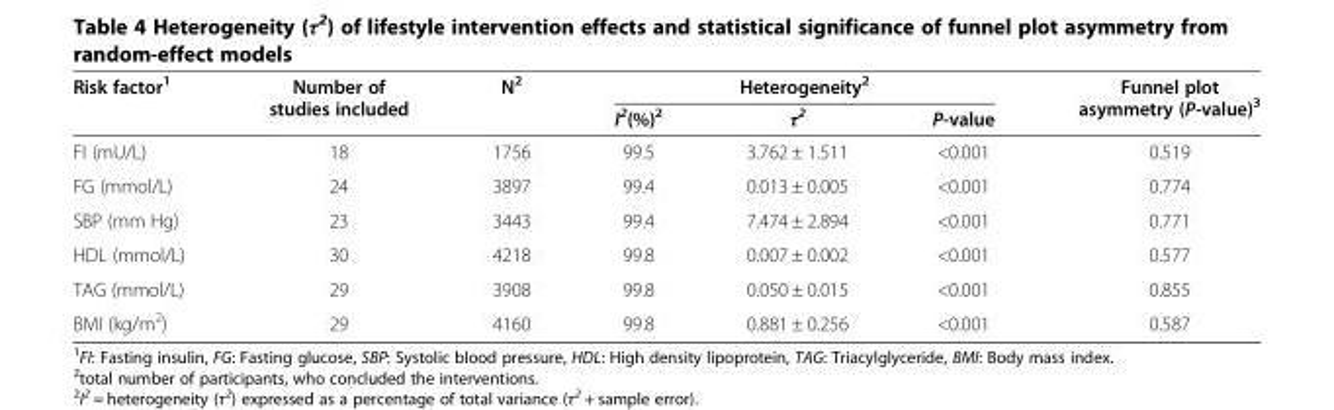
<table><thead><tr><td rowspan="2">Risk factor<sup>1</sup></td><td rowspan="2">Number of studies included</td><td rowspan="2">N<sup>2</sup></td><td colspan="3">Heterogeneity<sup>2</sup></td><td rowspan="2">Funnel plot asymmetry (P-value)<sup>3</sup></td></tr><tr><td>I<sup>2</sup>(%)<sup>2</sup></td><td>τ<sup>2</sup></td><td>P-value</td></tr></thead><tbody><tr><td>FI (mU/L)</td><td>18</td><td>1756</td><td>99.5</td><td>3.762 ± 1.511</td><td>&lt;0.001</td><td>0.519</td></tr><tr><td>FG (mmol/L)</td><td>24</td><td>3897</td><td>99.4</td><td>0.013 ± 0.005</td><td>&lt;0.001</td><td>0.774</td></tr><tr><td>SBP (mm Hg)</td><td>23</td><td>3443</td><td>99.4</td><td>7.474 ± 2.894</td><td>&lt;0.001</td><td>0.771</td></tr><tr><td>HDL (mmol/L)</td><td>30</td><td>4218</td><td>99.8</td><td>0.007 ± 0.002</td><td>&lt;0.001</td><td>0.577</td></tr><tr><td>TAG (mmol/L)</td><td>29</td><td>3908</td><td>99.8</td><td>0.050 ± 0.015</td><td>&lt;0.001</td><td>0.855</td></tr><tr><td>BMI (kg/m<sup>2</sup>)</td><td>29</td><td>4160</td><td>99.8</td><td>0.881 ± 0.256</td><td>&lt;0.001</td><td>0.587</td></tr></tbody></table>